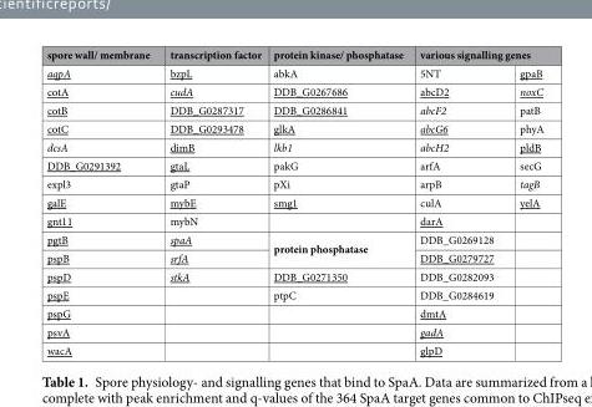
<table><thead><tr><td rowspan="2">spore wall/ membrane aqpA</td><td rowspan="2">transcription factor bzpL</td><td rowspan="2">protein kinase/ phosphatase abkA</td><td colspan="2">various signalling genes</td></tr><tr><td>5NT</td><td>gpaB</td></tr></thead><tbody><tr><td>cotA</td><td>cudA</td><td>DDB_G0267686</td><td>abcD2</td><td>noxC</td></tr><tr><td>cotB</td><td>DDB_G0287317</td><td>DDB_G0286841</td><td>abcF2</td><td>patB</td></tr><tr><td>cotC</td><td>DDB_G0293478</td><td>glkA</td><td>abcG6</td><td>phyA</td></tr><tr><td>dcsA</td><td>dimB</td><td>lkb1</td><td>abcH2</td><td>pldB</td></tr><tr><td>DDB_G0291392</td><td>gtaL</td><td>pakG</td><td>arfA</td><td>secG</td></tr><tr><td>expl3</td><td>gtaP</td><td>pXi</td><td>arpB</td><td>tagB</td></tr><tr><td>galE</td><td>mybE</td><td>smg1</td><td>culA</td><td>yelA</td></tr><tr><td>gnt11</td><td>mybN</td><td></td><td>darA</td><td></td></tr><tr><td>pgtB</td><td>spaA</td><td rowspan="2">protein phosphatase</td><td>DDB_G0269128</td><td></td></tr><tr><td>pspB</td><td>srfA</td><td>DDB_G0279727</td><td></td></tr><tr><td>pspD</td><td>stkA</td><td>DDB_G0271350</td><td>DDB_G0282093</td><td></td></tr><tr><td>pspE</td><td></td><td>ptpC</td><td>DDB_G0284619</td><td></td></tr><tr><td>pspG</td><td></td><td></td><td>dmtA</td><td></td></tr><tr><td>psvA</td><td></td><td></td><td>gadA</td><td></td></tr><tr><td>wacA</td><td></td><td></td><td>glpD</td><td></td></tr></tbody></table>